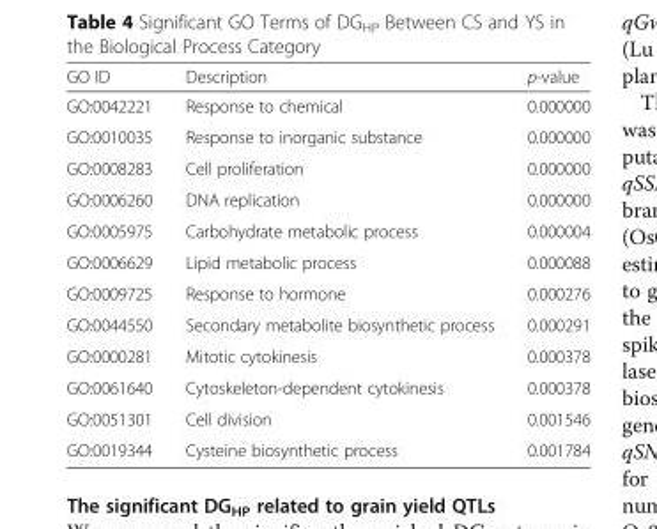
<table><thead><tr><td>GO ID</td><td>Description</td><td>p-value</td></tr></thead><tbody><tr><td>GO:0042221</td><td>Response to chemical</td><td>0.000000</td></tr><tr><td>GO:0010035</td><td>Response to inorganic substance</td><td>0.000000</td></tr><tr><td>GO:0008283</td><td>Cell proliferation</td><td>0.000000</td></tr><tr><td>GO:0006260</td><td>DNA replication</td><td>0.000000</td></tr><tr><td>GO:0005975</td><td>Carbohydrate metabolic process</td><td>0.000004</td></tr><tr><td>GO:0006629</td><td>Lipid metabolic process</td><td>0.000088</td></tr><tr><td>GO:0009725</td><td>Response to hormone</td><td>0.000276</td></tr><tr><td>GO:0044550</td><td>Secondary metabolite biosynthetic process</td><td>0.000291</td></tr><tr><td>GO:0000281</td><td>Mitotic cytokinesis</td><td>0.000378</td></tr><tr><td>GO:0061640</td><td>Cytoskeleton-dependent cytokinesis</td><td>0.000378</td></tr><tr><td>GO:0051301</td><td>Cell division</td><td>0.001546</td></tr><tr><td>GO:0019344</td><td>Cysteine biosynthetic process</td><td>0.001784</td></tr></tbody></table>